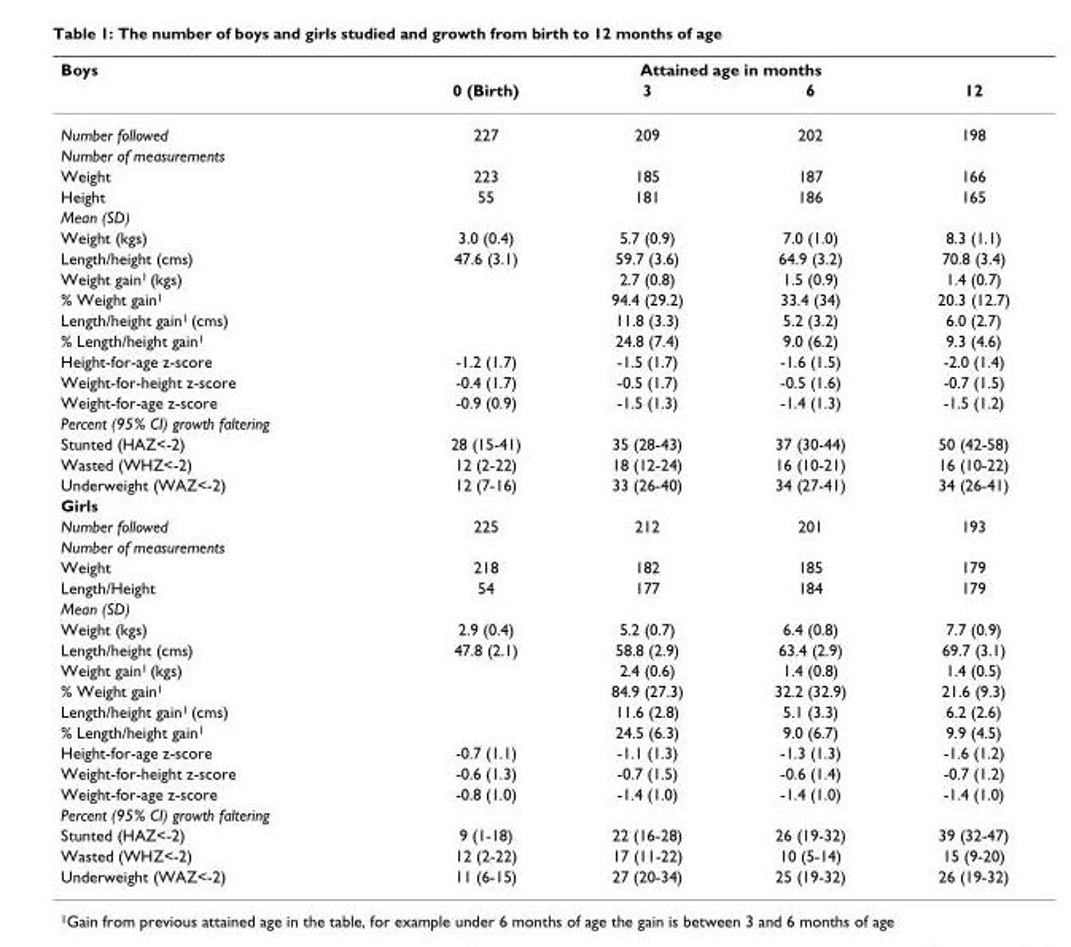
<table><thead><tr><td rowspan="2">Boys</td><td colspan="4">Attained age in months</td></tr><tr><td>0 (Birth)</td><td>3</td><td>6</td><td>12</td></tr></thead><tbody><tr><td>Number followed</td><td>227</td><td>209</td><td>202</td><td>198</td></tr><tr><td colspan="5">Number of measurements</td></tr><tr><td>Weight</td><td>223</td><td>185</td><td>187</td><td>166</td></tr><tr><td>Height</td><td>55</td><td>181</td><td>186</td><td>165</td></tr><tr><td colspan="5">Mean (SD)</td></tr><tr><td>Weight (kgs)</td><td>3.0 (0.4)</td><td>5.7 (0.9)</td><td>7.0 (1.0)</td><td>8.3 (1.1)</td></tr><tr><td>Length/height (cms)</td><td>47.6 (3.1)</td><td>59.7 (3.6)</td><td>64.9 (3.2)</td><td>70.8 (3.4)</td></tr><tr><td>Weight gain<sup>1</sup> (kgs)</td><td></td><td>2.7 (0.8)</td><td>1.5 (0.9)</td><td>1.4 (0.7)</td></tr><tr><td>% Weight gain<sup>1</sup></td><td></td><td>94.4 (29.2)</td><td>33.4 (34)</td><td>20.3 (12.7)</td></tr><tr><td>Length/height gain<sup>1</sup> (cms)</td><td></td><td>11.8 (3.3)</td><td>5.2 (3.2)</td><td>6.0 (2.7)</td></tr><tr><td>% Length/height gain<sup>1</sup></td><td></td><td>24.8 (7.4)</td><td>9.0 (6.2)</td><td>9.3 (4.6)</td></tr><tr><td>Height-for-age z-score</td><td>-1.2 (1.7)</td><td>-1.5 (1.7)</td><td>-1.6 (1.5)</td><td>-2.0 (1.4)</td></tr><tr><td>Weight-for-height z-score</td><td>-0.4 (1.7)</td><td>-0.5 (1.7)</td><td>-0.5 (1.6)</td><td>-0.7 (1.5)</td></tr><tr><td>Weight-for-age z-score</td><td>-0.9 (0.9)</td><td>-1.5 (1.3)</td><td>-1.4 (1.3)</td><td>-1.5 (1.2)</td></tr><tr><td colspan="5">Percent (95% CI) growth faltering</td></tr><tr><td>Stunted (HAZ&lt;-2)</td><td>28 (15-41)</td><td>35 (28-43)</td><td>37 (30-44)</td><td>50 (42-58)</td></tr><tr><td>Wasted (WHZ&lt;-2)</td><td>12 (2-22)</td><td>18 (12-24)</td><td>16 (10-21)</td><td>16 (10-22)</td></tr><tr><td>Underweight (WAZ&lt;-2)</td><td>12 (7-16)</td><td>33 (26-40)</td><td>34 (27-41)</td><td>34 (26-41)</td></tr><tr><td colspan="5">Girls</td></tr><tr><td>Number followed</td><td>225</td><td>212</td><td>201</td><td>193</td></tr><tr><td colspan="5">Number of measurements</td></tr><tr><td>Weight</td><td>218</td><td>182</td><td>185</td><td>179</td></tr><tr><td>Length/Height</td><td>54</td><td>177</td><td>184</td><td>179</td></tr><tr><td colspan="5">Mean (SD)</td></tr><tr><td>Weight (kgs)</td><td>2.9 (0.4)</td><td>5.2 (0.7)</td><td>6.4 (0.8)</td><td>7.7 (0.9)</td></tr><tr><td>Length/height (cms)</td><td>47.8 (2.1)</td><td>58.8 (2.9)</td><td>63.4 (2.9)</td><td>69.7 (3.1)</td></tr><tr><td>Weight gain<sup>1</sup> (kgs)</td><td></td><td>2.4 (0.6)</td><td>1.4 (0.8)</td><td>1.4 (0.5)</td></tr><tr><td>% Weight gain<sup>1</sup></td><td></td><td>84.9 (27.3)</td><td>32.2 (32.9)</td><td>21.6 (9.3)</td></tr><tr><td>Length/height gain<sup>1</sup> (cms)</td><td></td><td>11.6 (2.8)</td><td>5.1 (3.3)</td><td>6.2 (2.6)</td></tr><tr><td>% Length/height gain<sup>1</sup></td><td></td><td>24.5 (6.3)</td><td>9.0 (6.7)</td><td>9.9 (4.5)</td></tr><tr><td>Height-for-age z-score</td><td>-0.7 (1.1)</td><td>-1.1 (1.3)</td><td>-1.3 (1.3)</td><td>-1.6 (1.2)</td></tr><tr><td>Weight-for-height z-score</td><td>-0.6 (1.3)</td><td>-0.7 (1.5)</td><td>-0.6 (1.4)</td><td>-0.7 (1.2)</td></tr><tr><td>Weight-for-age z-score</td><td>-0.8 (1.0)</td><td>-1.4 (1.0)</td><td>-1.4 (1.0)</td><td>-1.4 (1.0)</td></tr><tr><td colspan="5">Percent (95% CI) growth faltering</td></tr><tr><td>Stunted (HAZ&lt;-2)</td><td>9 (1-18)</td><td>22 (16-28)</td><td>26 (19-32)</td><td>39 (32-47)</td></tr><tr><td>Wasted (WHZ&lt;-2)</td><td>12 (2-22)</td><td>17 (11-22)</td><td>10 (5-14)</td><td>15 (9-20)</td></tr><tr><td>Underweight (WAZ&lt;-2)</td><td>11 (6-15)</td><td>27 (20-34)</td><td>25 (19-32)</td><td>26 (19-32)</td></tr></tbody></table>